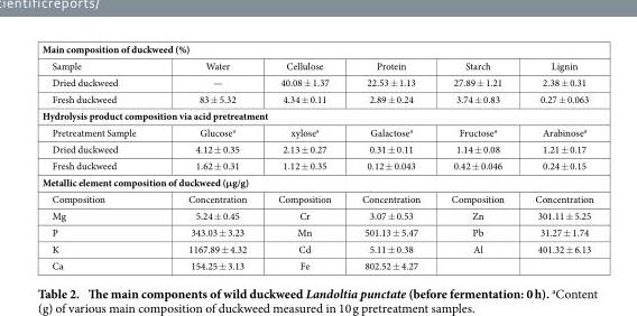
<table><tbody><tr><td colspan="6">Main composition of duckweed (%)</td></tr><tr><td>Sample</td><td>Water</td><td>Cellulose</td><td>Protein</td><td>Starch</td><td>Lignin</td></tr><tr><td>Dried duckweed</td><td>—</td><td>40.08 ± 1.37</td><td>22.53 ± 1.13</td><td>27.89 ± 1.21</td><td>2.38 ± 0.31</td></tr><tr><td>Fresh duckweed</td><td>83 ± 5.32</td><td>4.34 ± 0.11</td><td>2.89 ± 0.24</td><td>3.74 ± 0.83</td><td>0.27 ± 0.063</td></tr><tr><td colspan="6">Hydrolysis product composition via acid pretreatment</td></tr><tr><td>Pretreatment Sample</td><td>Glucose<sup>a</sup></td><td>xylose<sup>a</sup></td><td>Galactose<sup>a</sup></td><td>Fructose<sup>a</sup></td><td>Arabinose<sup>a</sup></td></tr><tr><td>Dried duckweed</td><td>4.12 ± 0.35</td><td>2.13 ± 0.27</td><td>0.31 ± 0.11</td><td>1.14 ± 0.08</td><td>1.21 ± 0.17</td></tr><tr><td>Fresh duckweed</td><td>1.62 ± 0.31</td><td>1.12 ± 0.35</td><td>0.12 ± 0.043</td><td>0.42 ± 0.046</td><td>0.24 ± 0.15</td></tr><tr><td colspan="6">Metallic element composition of duckweed (μg/g)</td></tr><tr><td>Composition</td><td>Concentration</td><td>Composition</td><td>Concentration</td><td>Composition</td><td>Concentration</td></tr><tr><td>Mg</td><td>5.24 ± 0.45</td><td>Cr</td><td>3.07 ± 0.53</td><td>Zn</td><td>301.11 ± 5.25</td></tr><tr><td>P</td><td>343.03 ± 3.23</td><td>Mn</td><td>501.13 ± 5.47</td><td>Pb</td><td>31.27 ± 1.74</td></tr><tr><td>K</td><td>1167.89 ± 4.32</td><td>Cd</td><td>5.11 ± 0.38</td><td>Al</td><td>401.32 ± 6.13</td></tr><tr><td>Ca</td><td>154.25 ± 3.13</td><td>Fe</td><td>802.52 ± 4.27</td><td></td><td></td></tr></tbody></table>